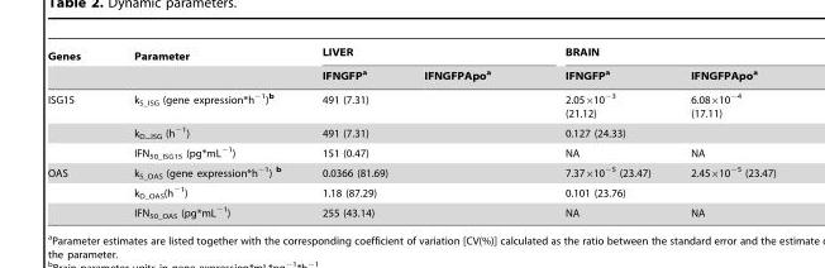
<table><thead><tr><td rowspan="2">Genes</td><td rowspan="2">Parameter</td><td colspan="2">LIVER</td><td colspan="2">BRAIN</td></tr><tr><td>IFNGFP<sup>a</sup></td><td>IFNGFPApo<sup>a</sup></td><td>IFNGFP<sup>a</sup></td><td>IFNGFPApo<sup>a</sup></td></tr></thead><tbody><tr><td rowspan="3">ISG15</td><td>k<sub>S_ISG</sub> (gene expression*h<sup>−1</sup>)<sup>b</sup></td><td colspan="2">491 (7.31)</td><td>2.05×10<sup>−3</sup> (21.12)</td><td>6.08×10<sup>−4</sup> (17.11)</td></tr><tr><td>kD_ISG (h−1)</td><td colspan="2">491 (7.31)</td><td colspan="2">0.127 (24.33)</td></tr><tr><td>IFN<sub>50_ISG15</sub> (pg*mL<sup>−1</sup>)</td><td colspan="2">151 (0.47)</td><td>NA</td><td>NA</td></tr><tr><td rowspan="3">OAS</td><td>k<sub>S_OAS</sub> (gene expression*h<sup>−1</sup>) b</td><td colspan="2">0.0366 (81.69)</td><td>7.37×10<sup>−5</sup> (23.47)</td><td>2.45×10<sup>−5</sup> (23.47)</td></tr><tr><td>k<sub>D_OAS</sub>(h<sup>−1</sup>)</td><td colspan="2">1.18 (87.29)</td><td colspan="2">0.101 (23.76)</td></tr><tr><td>IFN<sub>50_OAS</sub> (pg*mL<sup>−1</sup>)</td><td colspan="2">255 (43.14)</td><td>NA</td><td>NA</td></tr></tbody></table>